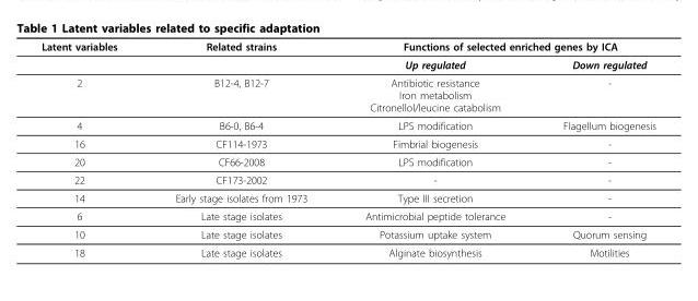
<table><thead><tr><td rowspan="2">Latent variables</td><td rowspan="2">Related strains</td><td colspan="2">Functions of selected enriched genes by ICA</td></tr><tr><td>Up regulated</td><td>Down regulated</td></tr></thead><tbody><tr><td>2</td><td>B12-4, B12-7</td><td>Antibiotic resistance Iron metabolism Citronellol/leucine catabolism</td><td>-</td></tr><tr><td>4</td><td>B6-0, B6-4</td><td>LPS modification</td><td>Flagellum biogenesis</td></tr><tr><td>16</td><td>CF114-1973</td><td>Fimbrial biogenesis</td><td>-</td></tr><tr><td>20</td><td>CF66-2008</td><td>LPS modification</td><td>-</td></tr><tr><td>22</td><td>CF173-2002</td><td>-</td><td>-</td></tr><tr><td>14</td><td>Early stage isolates from 1973</td><td>Type III secretion</td><td>-</td></tr><tr><td>6</td><td>Late stage isolates</td><td>Antimicrobial peptide tolerance</td><td>-</td></tr><tr><td>10</td><td>Late stage isolates</td><td>Potassium uptake system</td><td>Quorum sensing</td></tr><tr><td>18</td><td>Late stage isolates</td><td>Alginate biosynthesis</td><td>Motilities</td></tr></tbody></table>